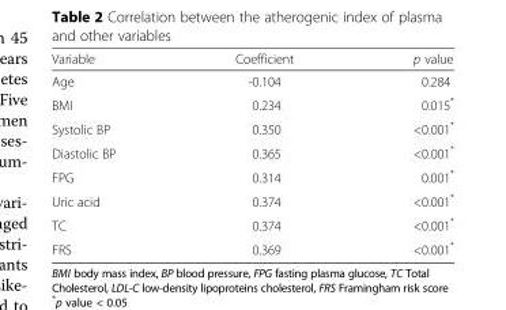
<table><thead><tr><td>Variable</td><td>Coefficient</td><td>p value</td></tr></thead><tbody><tr><td>Age</td><td>-0.104</td><td>0.284</td></tr><tr><td>BMI</td><td>0.234</td><td>0.015*</td></tr><tr><td>Systolic BP</td><td>0.350</td><td>&lt;0.001*</td></tr><tr><td>Diastolic BP</td><td>0.365</td><td>&lt;0.001*</td></tr><tr><td>FPG</td><td>0.314</td><td>0.001*</td></tr><tr><td>Uric acid</td><td>0.374</td><td>&lt;0.001*</td></tr><tr><td>TC</td><td>0.374</td><td>&lt;0.001*</td></tr><tr><td>FRS</td><td>0.369</td><td>&lt;0.001*</td></tr></tbody></table>